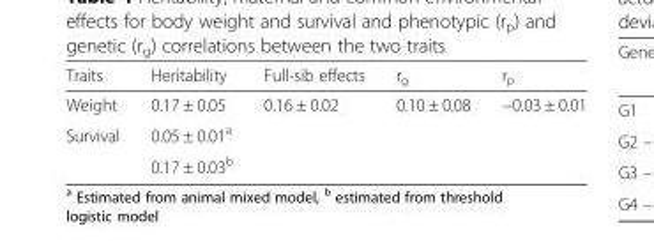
<table><thead><tr><td>Traits</td><td>Heritability</td><td>Full-sib effects</td><td>r<sub>g</sub></td><td>r<sub>p</sub></td></tr></thead><tbody><tr><td>Weight</td><td>0.17 ± 0.05</td><td>0.16 ± 0.02</td><td rowspan="3">0.10 ± 0.08</td><td rowspan="3">−0.03 ± 0.01</td></tr><tr><td rowspan="2">Survival</td><td>0.05 ± 0.01<sup>a</sup></td><td rowspan="2"></td></tr><tr><td>0.17 ± 0.03<sup>b</sup></td></tr></tbody></table>